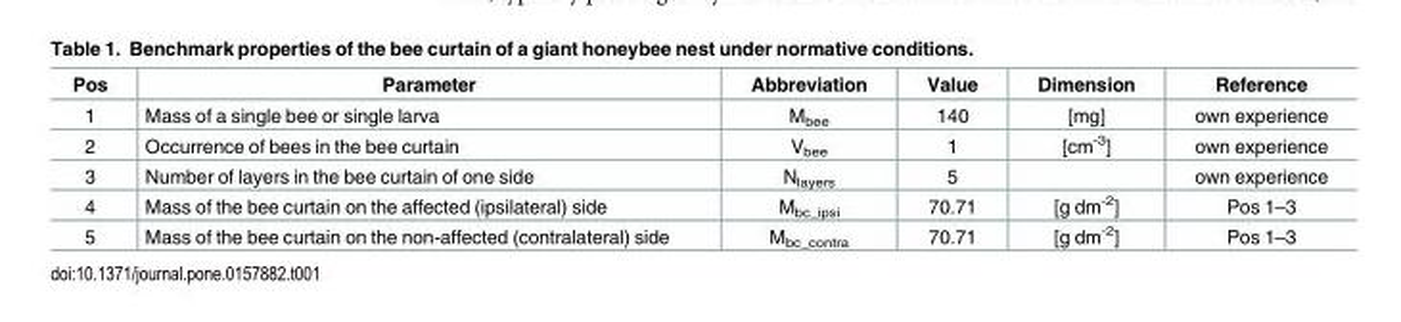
<table><thead><tr><td>Pos</td><td>Parameter</td><td>Abbreviation</td><td>Value</td><td>Dimension</td><td>Reference</td></tr></thead><tbody><tr><td>1</td><td>Mass of a single bee or single larva</td><td>M<sub>bee</sub></td><td>140</td><td>[mg]</td><td>own experience</td></tr><tr><td>2</td><td>Occurrence of bees in the bee curtain</td><td>V<sub>bee</sub></td><td>1</td><td>[cm<sup>-3</sup>]</td><td>own experience</td></tr><tr><td>3</td><td>Number of layers in the bee curtain of one side</td><td>N<sub>layers</sub></td><td>5</td><td></td><td>own experience</td></tr><tr><td>4</td><td>Mass of the bee curtain on the affected (ipsilateral) side</td><td>M<sub>bc_ipsi</sub></td><td>70.71</td><td>[g dm<sup>-2</sup>]</td><td>Pos 1–3</td></tr><tr><td>5</td><td>Mass of the bee curtain on the non-affected (contralateral) side</td><td>M<sub>bc_contra</sub></td><td>70.71</td><td>[g dm<sup>-2</sup>]</td><td>Pos 1–3</td></tr></tbody></table>